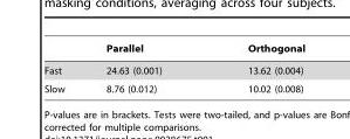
<table><thead><tr><td></td><td>Parallel</td><td>Orthogonal</td></tr></thead><tbody><tr><td>Fast</td><td>24.63 (0.001)</td><td>13.62 (0.004)</td></tr><tr><td>Slow</td><td>8.76 (0.012)</td><td>10.02 (0.008)</td></tr></tbody></table>